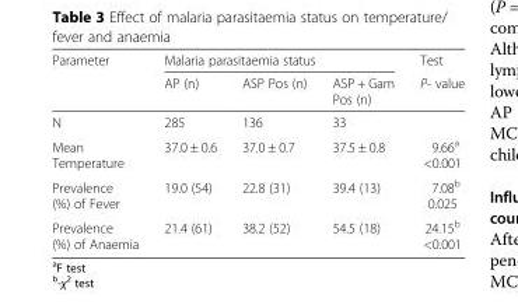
<table><thead><tr><td rowspan="2">Parameter</td><td colspan="3">Malaria parasitaemia status</td><td rowspan="2">Test P- value</td></tr><tr><td>AP (n)</td><td>ASP Pos (n)</td><td>ASP + Gam Pos (n)</td></tr></thead><tbody><tr><td>N</td><td>285</td><td>136</td><td>33</td><td></td></tr><tr><td>Mean Temperature</td><td>37.0 ± 0.6</td><td>37.0 ± 0.7</td><td>37.5 ± 0.8</td><td>9.66<sup>a</sup> &lt;0.001</td></tr><tr><td>Prevalence (%) of Fever</td><td>19.0 (54)</td><td>22.8 (31)</td><td>39.4 (13)</td><td>7.08<sup>b</sup> 0.025</td></tr><tr><td>Prevalence (%) of Anaemia</td><td>21.4 (61)</td><td>38.2 (52)</td><td>54.5 (18)</td><td>24.15<sup>b</sup> &lt;0.001</td></tr></tbody></table>